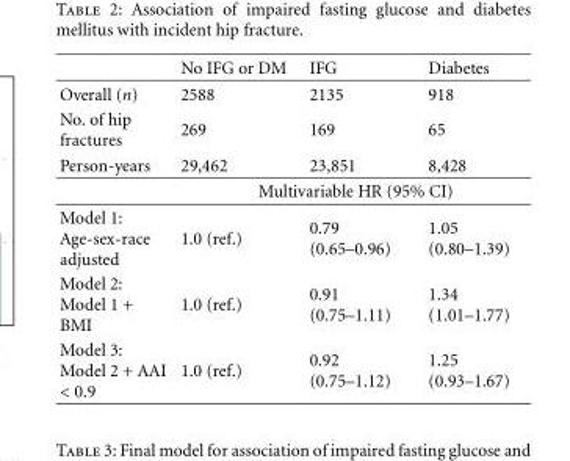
<table><thead><tr><td></td><td>No IFG or DM</td><td>IFG</td><td>Diabetes</td></tr></thead><tbody><tr><td>Overall (n)</td><td>2588</td><td>2135</td><td>918</td></tr><tr><td>No. of hip fractures</td><td>269</td><td>169</td><td>65</td></tr><tr><td rowspan="2">Person-years</td><td>29,462</td><td>23,851</td><td>8,428</td></tr><tr><td colspan="3">Multivariable HR (95% CI)</td></tr><tr><td>Model 1: Age-sex-race adjusted</td><td>1.0 (ref.)</td><td>0.79 (0.65–0.96)</td><td>1.05 (0.80–1.39)</td></tr><tr><td>Model 2: Model 1 + BMI</td><td>1.0 (ref.)</td><td>0.91 (0.75–1.11)</td><td>1.34 (1.01–1.77)</td></tr><tr><td>Model 3: Model 2 + AAI &lt; 0.9</td><td>1.0 (ref.)</td><td>0.92 (0.75–1.12)</td><td>1.25 (0.93–1.67)</td></tr></tbody></table>